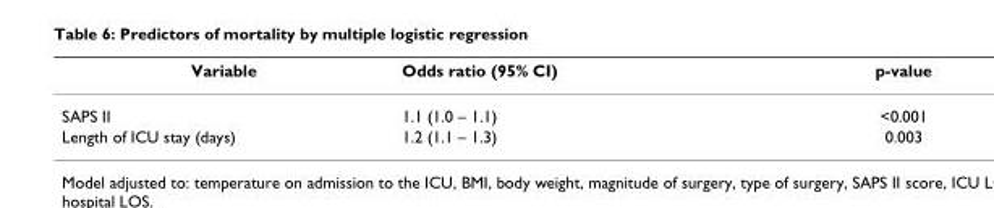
<table><thead><tr><td>Variable</td><td>Odds ratio (95% CI)</td><td>p-value</td></tr></thead><tbody><tr><td>SAPS II</td><td>1.1 (1.0 – 1.1)</td><td>&lt;0.001</td></tr><tr><td>Length of ICU stay (days)</td><td>1.2 (1.1 – 1.3)</td><td>0.003</td></tr></tbody></table>